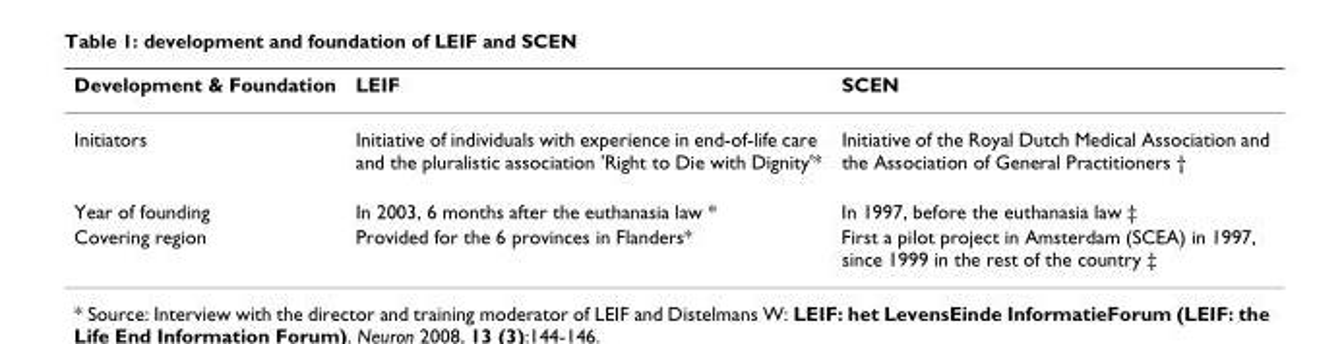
<table><thead><tr><td>Development &amp; Foundation</td><td>LEIF</td><td>SCEN</td></tr></thead><tbody><tr><td>Initiators</td><td>Initiative of individuals with experience in end-of-life care and the pluralistic association &#x27;Right to Die with Dignity&#x27;*</td><td>Initiative of the Royal Dutch Medical Association and the Association of General Practitioners †</td></tr><tr><td>Year of founding</td><td>In 2003, 6 months after the euthanasia law *</td><td>In 1997, before the euthanasia law ‡</td></tr><tr><td>Covering region</td><td>Provided for the 6 provinces in Flanders*</td><td>First a pilot project in Amsterdam (SCEA) in 1997, since 1999 in the rest of the country ‡</td></tr></tbody></table>